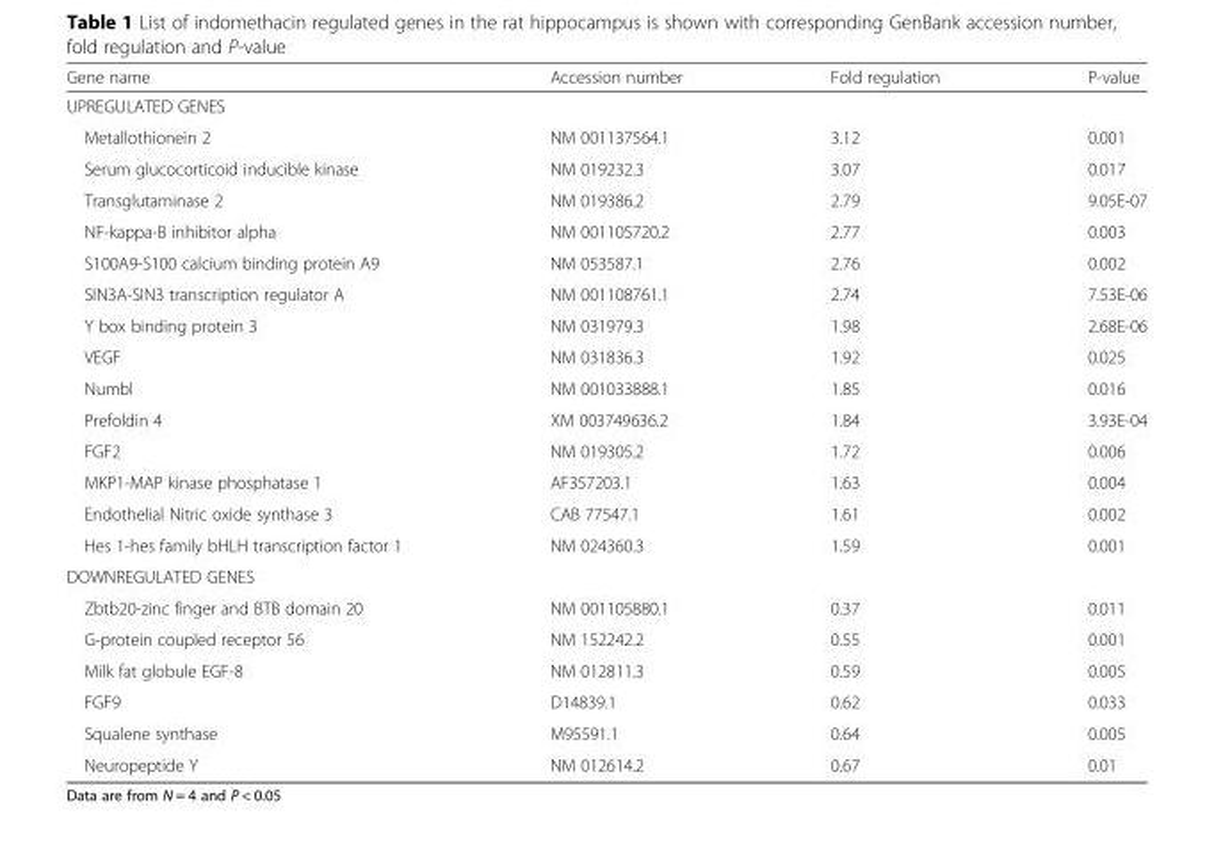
<table><thead><tr><td>Gene name</td><td>Accession number</td><td>Fold regulation</td><td>P-value</td></tr></thead><tbody><tr><td colspan="4">UPREGULATED GENES</td></tr><tr><td>Metallothionein 2</td><td>NM 001137564.1</td><td>3.12</td><td>0.001</td></tr><tr><td>Serum glucocorticoid inducible kinase</td><td>NM 019232.3</td><td>3.07</td><td>0.017</td></tr><tr><td>Transglutaminase 2</td><td>NM 019386.2</td><td>2.79</td><td>9.05E-07</td></tr><tr><td>NF-kappa-B inhibitor alpha</td><td>NM 001105720.2</td><td>2.77</td><td>0.003</td></tr><tr><td>S100A9-S100 calcium binding protein A9</td><td>NM 053587.1</td><td>2.76</td><td>0.002</td></tr><tr><td>SIN3A-SIN3 transcription regulator A</td><td>NM 001108761.1</td><td>2.74</td><td>7.53E-06</td></tr><tr><td>Y box binding protein 3</td><td>NM 031979.3</td><td>1.98</td><td>2.68E-06</td></tr><tr><td>VEGF</td><td>NM 031836.3</td><td>1.92</td><td>0.025</td></tr><tr><td>Numbl</td><td>NM 001033888.1</td><td>1.85</td><td>0.016</td></tr><tr><td>Prefoldin 4</td><td>XM 003749636.2</td><td>1.84</td><td>3.93E-04</td></tr><tr><td>FGF2</td><td>NM 019305.2</td><td>1.72</td><td>0.006</td></tr><tr><td>MKP1-MAP kinase phosphatase 1</td><td>AF357203.1</td><td>1.63</td><td>0.004</td></tr><tr><td>Endothelial Nitric oxide synthase 3</td><td>CAB 77547.1</td><td>1.61</td><td>0.002</td></tr><tr><td>Hes 1-hes family bHLH transcription factor 1</td><td>NM 024360.3</td><td>1.59</td><td>0.001</td></tr><tr><td colspan="4">DOWNREGULATED GENES</td></tr><tr><td>Zbtb20-zinc finger and BTB domain 20</td><td>NM 001105880.1</td><td>0.37</td><td>0.011</td></tr><tr><td>G-protein coupled receptor 56</td><td>NM 152242.2</td><td>0.55</td><td>0.001</td></tr><tr><td>Milk fat globule EGF-8</td><td>NM 012811.3</td><td>0.59</td><td>0.005</td></tr><tr><td>FGF9</td><td>D14839.1</td><td>0.62</td><td>0.033</td></tr><tr><td>Squalene synthase</td><td>M95591.1</td><td>0.64</td><td>0.005</td></tr><tr><td>Neuropeptide Y</td><td>NM 012614.2</td><td>0.67</td><td>0.01</td></tr></tbody></table>